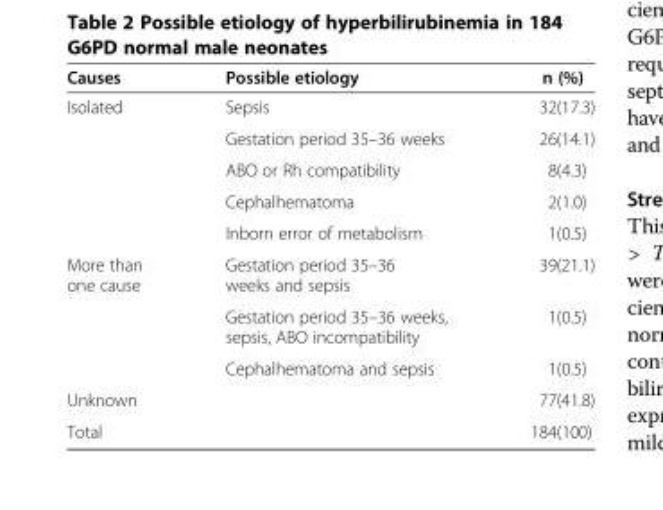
<table><thead><tr><td>Causes</td><td>Possible etiology</td><td>n (%)</td></tr></thead><tbody><tr><td rowspan="5">Isolated</td><td>Sepsis</td><td>32(17.3)</td></tr><tr><td>Gestation period 35–36 weeks</td><td>26(14.1)</td></tr><tr><td>ABO or Rh compatibility</td><td>8(4.3)</td></tr><tr><td>Cephalhematoma</td><td>2(1.0)</td></tr><tr><td>Inborn error of metabolism</td><td>1(0.5)</td></tr><tr><td rowspan="3">More than one cause</td><td>Gestation period 35–36 weeks and sepsis</td><td>39(21.1)</td></tr><tr><td>Gestation period 35–36 weeks, sepsis, ABO incompatibility</td><td>1(0.5)</td></tr><tr><td>Cephalhematoma and sepsis</td><td>1(0.5)</td></tr><tr><td colspan="2">Unknown</td><td>77(41.8)</td></tr><tr><td colspan="2">Total</td><td>184(100)</td></tr></tbody></table>